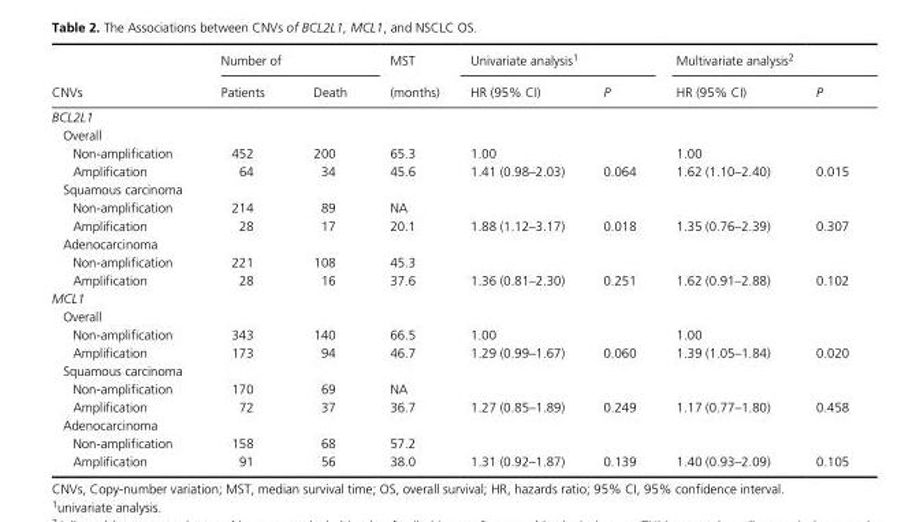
<table><thead><tr><td rowspan="2">CNVs</td><td colspan="2">Number of</td><td rowspan="2">MST (months)</td><td colspan="2">Univariate analysis1</td><td colspan="2">Multivariate analysis2</td></tr><tr><td>Patients</td><td>Death</td><td>HR (95% CI)</td><td>P</td><td>HR (95% CI)</td><td>P</td></tr></thead><tbody><tr><td colspan="8">BCL2L1</td></tr><tr><td colspan="8">Overall</td></tr><tr><td>Non- amplification</td><td>452</td><td>200</td><td>65.3</td><td>1.00</td><td></td><td>1.00</td><td></td></tr><tr><td>Amplification</td><td>64</td><td>34</td><td>45.6</td><td>1.41 (0.98–2.03)</td><td>0.064</td><td>1.62 (1.10–2.40)</td><td>0.015</td></tr><tr><td colspan="8">Squamous carcinoma</td></tr><tr><td>Non- amplification</td><td>214</td><td>89</td><td>NA</td><td></td><td></td><td></td><td></td></tr><tr><td>Amplification</td><td>28</td><td>17</td><td>20.1</td><td>1.88 (1.12–3.17)</td><td>0.018</td><td>1.35 (0.76–2.39)</td><td>0.307</td></tr><tr><td colspan="8">Adenocarcinoma</td></tr><tr><td>Non- amplification</td><td>221</td><td>108</td><td>45.3</td><td></td><td></td><td></td><td></td></tr><tr><td>Amplification</td><td>28</td><td>16</td><td>37.6</td><td>1.36 (0.81–2.30)</td><td>0.251</td><td>1.62 (0.91–2.88)</td><td>0.102</td></tr><tr><td colspan="8">MCL1</td></tr><tr><td colspan="8">Overall</td></tr><tr><td>Non- amplification</td><td>343</td><td>140</td><td>66.5</td><td>1.00</td><td></td><td>1.00</td><td></td></tr><tr><td>Amplification</td><td>173</td><td>94</td><td>46.7</td><td>1.29 (0.99–1.67)</td><td>0.060</td><td>1.39 (1.05–1.84)</td><td>0.020</td></tr><tr><td colspan="8">Squamous carcinoma</td></tr><tr><td>Non- amplification</td><td>170</td><td>69</td><td>NA</td><td></td><td></td><td></td><td></td></tr><tr><td>Amplification</td><td>72</td><td>37</td><td>36.7</td><td>1.27 (0.85–1.89)</td><td>0.249</td><td>1.17 (0.77–1.80)</td><td>0.458</td></tr><tr><td colspan="8">Adenocarcinoma</td></tr><tr><td>Non- amplification</td><td>158</td><td>68</td><td>57.2</td><td></td><td></td><td></td><td></td></tr><tr><td>Amplification</td><td>91</td><td>56</td><td>38.0</td><td>1.31 (0.92–1.87)</td><td>0.139</td><td>1.40 (0.93–2.09)</td><td>0.105</td></tr></tbody></table>